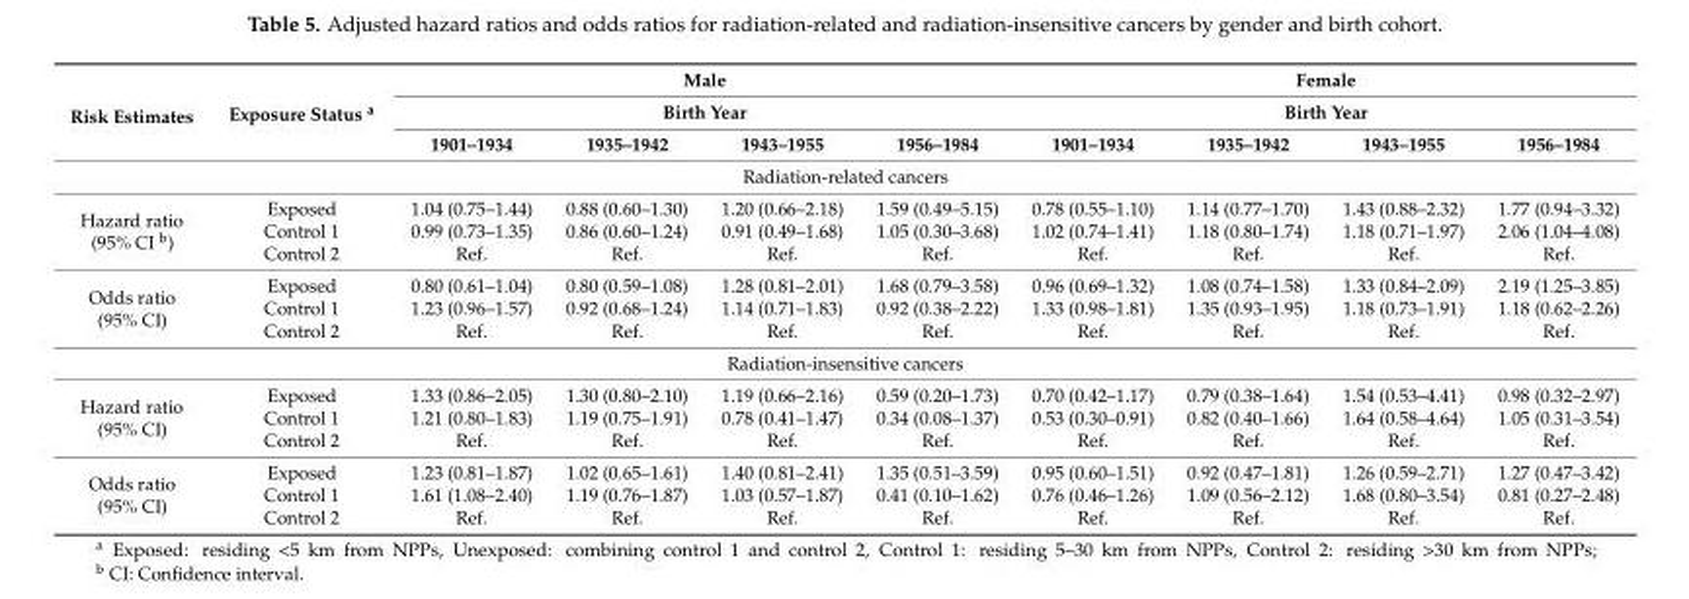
<table><thead><tr><td rowspan="3">Risk Estimates</td><td rowspan="3">Exposure Status <sup>a</sup></td><td rowspan="2" colspan="4">Male Birth Year</td><td rowspan="2" colspan="4">Female Birth Year</td></tr><tr></tr><tr><td>1901–1934</td><td>1935–1942</td><td>1943–1955</td><td>1956–1984</td><td>1901–1934</td><td>1935–1942</td><td>1943–1955</td><td>1956–1984</td></tr></thead><tbody><tr><td colspan="10">Radiation-related cancers</td></tr><tr><td rowspan="3">Hazard ratio (95% CI <sup>b</sup>)</td><td>Exposed</td><td>1.04 (0.75–1.44)</td><td>0.88 (0.60–1.30)</td><td>1.20 (0.66–2.18)</td><td>1.59 (0.49–5.15)</td><td>0.78 (0.55–1.10)</td><td>1.14 (0.77–1.70)</td><td>1.43 (0.88–2.32)</td><td>1.77 (0.94–3.32)</td></tr><tr><td>Control 1</td><td>0.99 (0.73–1.35)</td><td>0.86 (0.60–1.24)</td><td>0.91 (0.49–1.68)</td><td>1.05 (0.30–3.68)</td><td>1.02 (0.74–1.41)</td><td>1.18 (0.80–1.74)</td><td>1.18 (0.71–1.97)</td><td>2.06 (1.04–4.08)</td></tr><tr><td>Control 2</td><td>Ref.</td><td>Ref.</td><td>Ref.</td><td>Ref.</td><td>Ref.</td><td>Ref.</td><td>Ref.</td><td>Ref.</td></tr><tr><td rowspan="3">Odds ratio (95% CI)</td><td>Exposed</td><td>0.80 (0.61–1.04)</td><td>0.80 (0.59–1.08)</td><td>1.28 (0.81–2.01)</td><td>1.68 (0.79–3.58)</td><td>0.96 (0.69–1.32)</td><td>1.08 (0.74–1.58)</td><td>1.33 (0.84–2.09)</td><td>2.19 (1.25–3.85)</td></tr><tr><td>Control 1</td><td>1.23 (0.96–1.57)</td><td>0.92 (0.68–1.24)</td><td>1.14 (0.71–1.83)</td><td>0.92 (0.38–2.22)</td><td>1.33 (0.98–1.81)</td><td>1.35 (0.93–1.95)</td><td>1.18 (0.73–1.91)</td><td>1.18 (0.62–2.26)</td></tr><tr><td>Control 2</td><td>Ref.</td><td>Ref.</td><td>Ref.</td><td>Ref.</td><td>Ref.</td><td>Ref.</td><td>Ref.</td><td>Ref.</td></tr><tr><td colspan="10">Radiation-insensitive cancers</td></tr><tr><td rowspan="3">Hazard ratio (95% CI)</td><td>Exposed</td><td>1.33 (0.86–2.05)</td><td>1.30 (0.80–2.10)</td><td>1.19 (0.66–2.16)</td><td>0.59 (0.20–1.73)</td><td>0.70 (0.42–1.17)</td><td>0.79 (0.38–1.64)</td><td>1.54 (0.53–4.41)</td><td>0.98 (0.32–2.97)</td></tr><tr><td>Control 1</td><td>1.21 (0.80–1.83)</td><td>1.19 (0.75–1.91)</td><td>0.78 (0.41–1.47)</td><td>0.34 (0.08–1.37)</td><td>0.53 (0.30–0.91)</td><td>0.82 (0.40–1.66)</td><td>1.64 (0.58–4.64)</td><td>1.05 (0.31–3.54)</td></tr><tr><td>Control 2</td><td>Ref.</td><td>Ref.</td><td>Ref.</td><td>Ref.</td><td>Ref.</td><td>Ref.</td><td>Ref.</td><td>Ref.</td></tr><tr><td rowspan="3">Odds ratio (95% CI)</td><td>Exposed</td><td>1.23 (0.81–1.87)</td><td>1.02 (0.65–1.61)</td><td>1.40 (0.81–2.41)</td><td>1.35 (0.51–3.59)</td><td>0.95 (0.60–1.51)</td><td>0.92 (0.47–1.81)</td><td>1.26 (0.59–2.71)</td><td>1.27 (0.47–3.42)</td></tr><tr><td>Control 1</td><td>1.61 (1.08–2.40)</td><td>1.19 (0.76–1.87)</td><td>1.03 (0.57–1.87)</td><td>0.41 (0.10–1.62)</td><td>0.76 (0.46–1.26)</td><td>1.09 (0.56–2.12)</td><td>1.68 (0.80–3.54)</td><td>0.81 (0.27–2.48)</td></tr><tr><td>Control 2</td><td>Ref.</td><td>Ref.</td><td>Ref.</td><td>Ref.</td><td>Ref.</td><td>Ref.</td><td>Ref.</td><td>Ref.</td></tr></tbody></table>